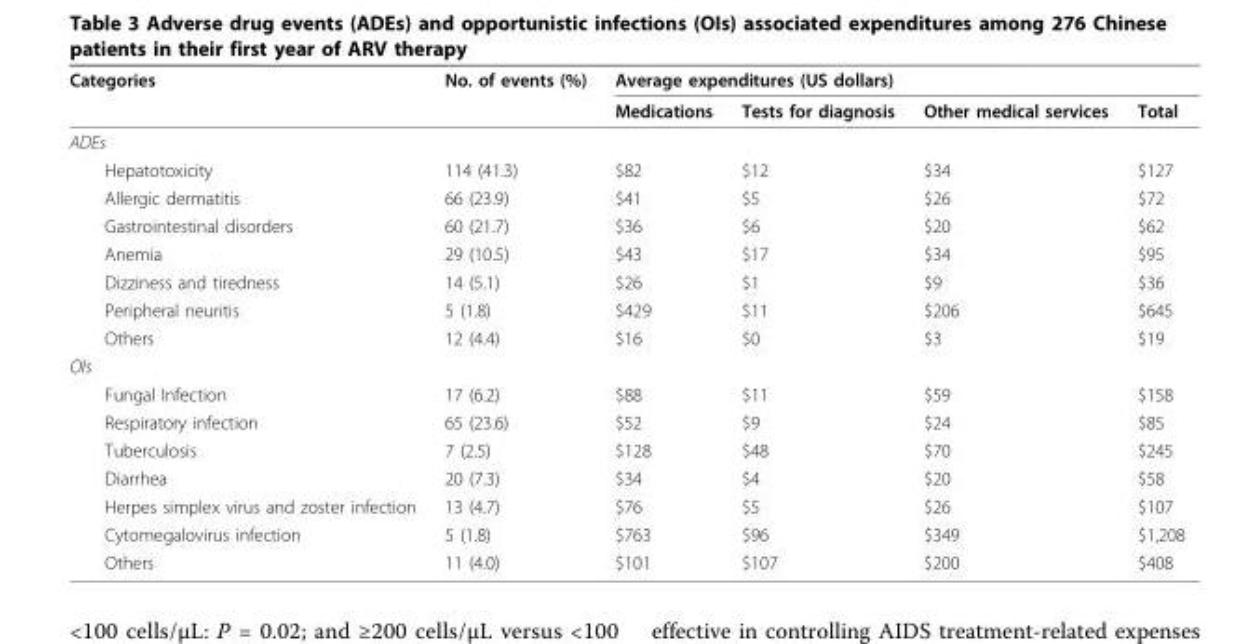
<table><thead><tr><td rowspan="2">Categories</td><td rowspan="2">No. of events (%)</td><td colspan="4">Average expenditures (US dollars)</td></tr><tr><td>Medications</td><td>Tests for diagnosis</td><td>Other medical services</td><td>Total</td></tr></thead><tbody><tr><td colspan="6">ADEs</td></tr><tr><td>Hepatotoxicity</td><td>114 (41.3)</td><td>$82</td><td>$12</td><td>$34</td><td>$127</td></tr><tr><td>Allergic dermatitis</td><td>66 (23.9)</td><td>$41</td><td>$5</td><td>$26</td><td>$72</td></tr><tr><td>Gastrointestinal disorders</td><td>60 (21.7)</td><td>$36</td><td>$6</td><td>$20</td><td>$62</td></tr><tr><td>Anemia</td><td>29 (10.5)</td><td>$43</td><td>$17</td><td>$34</td><td>$95</td></tr><tr><td>Dizziness and tiredness</td><td>14 (5.1)</td><td>$26</td><td>$1</td><td>$9</td><td>$36</td></tr><tr><td>Peripheral neuritis</td><td>5 (1.8)</td><td>$429</td><td>$11</td><td>$206</td><td>$645</td></tr><tr><td>Others</td><td>12 (4.4)</td><td>$16</td><td>$0</td><td>$3</td><td>$19</td></tr><tr><td colspan="6">OIs</td></tr><tr><td>Fungal Infection</td><td>17 (6.2)</td><td>$88</td><td>$11</td><td>$59</td><td>$158</td></tr><tr><td>Respiratory infection</td><td>65 (23.6)</td><td>$52</td><td>$9</td><td>$24</td><td>$85</td></tr><tr><td>Tuberculosis</td><td>7 (2.5)</td><td>$128</td><td>$48</td><td>$70</td><td>$245</td></tr><tr><td>Diarrhea</td><td>20 (7.3)</td><td>$34</td><td>$4</td><td>$20</td><td>$58</td></tr><tr><td>Herpes simplex virus and zoster infection</td><td>13 (4.7)</td><td>$76</td><td>$5</td><td>$26</td><td>$107</td></tr><tr><td>Cytomegalovirus infection</td><td>5 (1.8)</td><td>$763</td><td>$96</td><td>$349</td><td>$1,208</td></tr><tr><td>Others</td><td>11 (4.0)</td><td>$101</td><td>$107</td><td>$200</td><td>$408</td></tr></tbody></table>